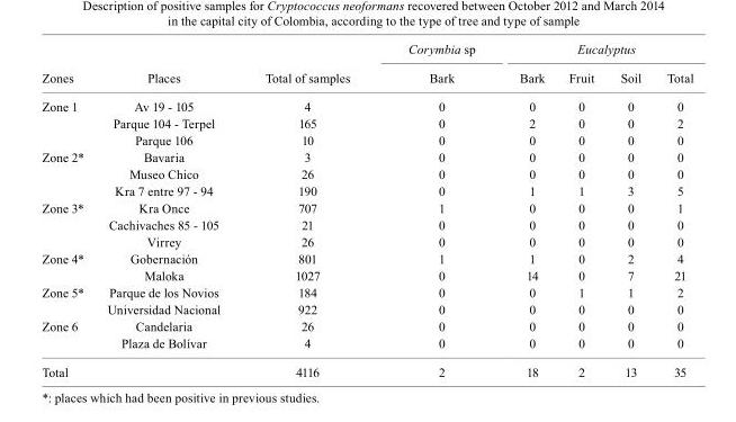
<table><thead><tr><td rowspan="2">Zones</td><td rowspan="2">Places</td><td rowspan="2">Total of samples</td><td rowspan="2">Corymbia sp Bark</td><td colspan="4">Eucalyptus</td></tr><tr><td>Bark</td><td>Fruit</td><td>Soil</td><td>Total</td></tr></thead><tbody><tr><td rowspan="3">Zone 1</td><td>Av 19 - 105</td><td>4</td><td>0</td><td>0</td><td>0</td><td>0</td><td>0</td></tr><tr><td>Parque 104 - Terpel</td><td>165</td><td>0</td><td>2</td><td>0</td><td>0</td><td>2</td></tr><tr><td>Parque 106</td><td>10</td><td>0</td><td>0</td><td>0</td><td>0</td><td>0</td></tr><tr><td rowspan="3">Zone 2*</td><td>Bavaria</td><td>3</td><td>0</td><td>0</td><td>0</td><td>0</td><td>0</td></tr><tr><td>Museo Chico</td><td>26</td><td>0</td><td>0</td><td>0</td><td>0</td><td>0</td></tr><tr><td>Kra 7 entre 97 - 94</td><td>190</td><td>0</td><td>1</td><td>1</td><td>3</td><td>5</td></tr><tr><td rowspan="3">Zone 3*</td><td>Kra Once</td><td>707</td><td>1</td><td>0</td><td>0</td><td>0</td><td>1</td></tr><tr><td>Cachivaches 85 - 105</td><td>21</td><td>0</td><td>0</td><td>0</td><td>0</td><td>0</td></tr><tr><td>Virrey</td><td>26</td><td>0</td><td>0</td><td>0</td><td>0</td><td>0</td></tr><tr><td rowspan="2">Zone 4*</td><td>Gobernación</td><td>801</td><td>1</td><td>1</td><td>0</td><td>2</td><td>4</td></tr><tr><td>Maloka</td><td>1027</td><td>0</td><td>14</td><td>0</td><td>7</td><td>21</td></tr><tr><td rowspan="2">Zone 5*</td><td>Parque de los Novios</td><td>184</td><td>0</td><td>0</td><td>1</td><td>1</td><td>2</td></tr><tr><td>Universidad Nacional</td><td>922</td><td>0</td><td>0</td><td>0</td><td>0</td><td>0</td></tr><tr><td rowspan="2">Zone 6</td><td>Candelaria</td><td>26</td><td>0</td><td>0</td><td>0</td><td>0</td><td>0</td></tr><tr><td>Plaza de Bolívar</td><td>4</td><td>0</td><td>0</td><td>0</td><td>0</td><td>0</td></tr><tr><td colspan="2">Total</td><td>4116</td><td>2</td><td>18</td><td>2</td><td>13</td><td>35</td></tr></tbody></table>